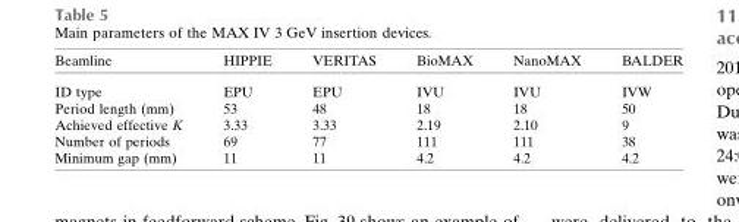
<table><thead><tr><td>Beamline</td><td>HIPPIE</td><td>VERITAS</td><td>BioMAX</td><td>NanoMAX</td><td>BALDER</td></tr></thead><tbody><tr><td>ID type</td><td>EPU</td><td>EPU</td><td>IVU</td><td>IVU</td><td>IVW</td></tr><tr><td>Period length (mm)</td><td>53</td><td>48</td><td>18</td><td>18</td><td>50</td></tr><tr><td>Achieved effective K</td><td>3.33</td><td>3.33</td><td>2.19</td><td>2.10</td><td>9</td></tr><tr><td>Number of periods</td><td>69</td><td>77</td><td>111</td><td>111</td><td>38</td></tr><tr><td>Minimum gap (mm)</td><td>11</td><td>11</td><td>4.2</td><td>4.2</td><td>4.2</td></tr></tbody></table>